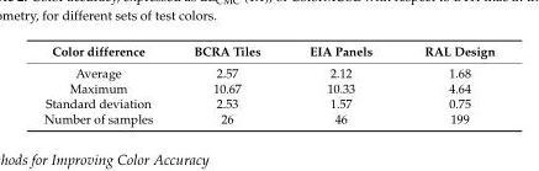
<table><thead><tr><td>Color difference</td><td>BCRA Tiles</td><td>EIA Panels</td><td>RAL Design</td></tr></thead><tbody><tr><td>Average</td><td>2.57</td><td>2.12</td><td>1.68</td></tr><tr><td>Maximum</td><td>10.67</td><td>10.33</td><td>4.64</td></tr><tr><td>Standard deviation</td><td>2.53</td><td>1.57</td><td>0.75</td></tr><tr><td>Number of samples</td><td>26</td><td>46</td><td>199</td></tr></tbody></table>